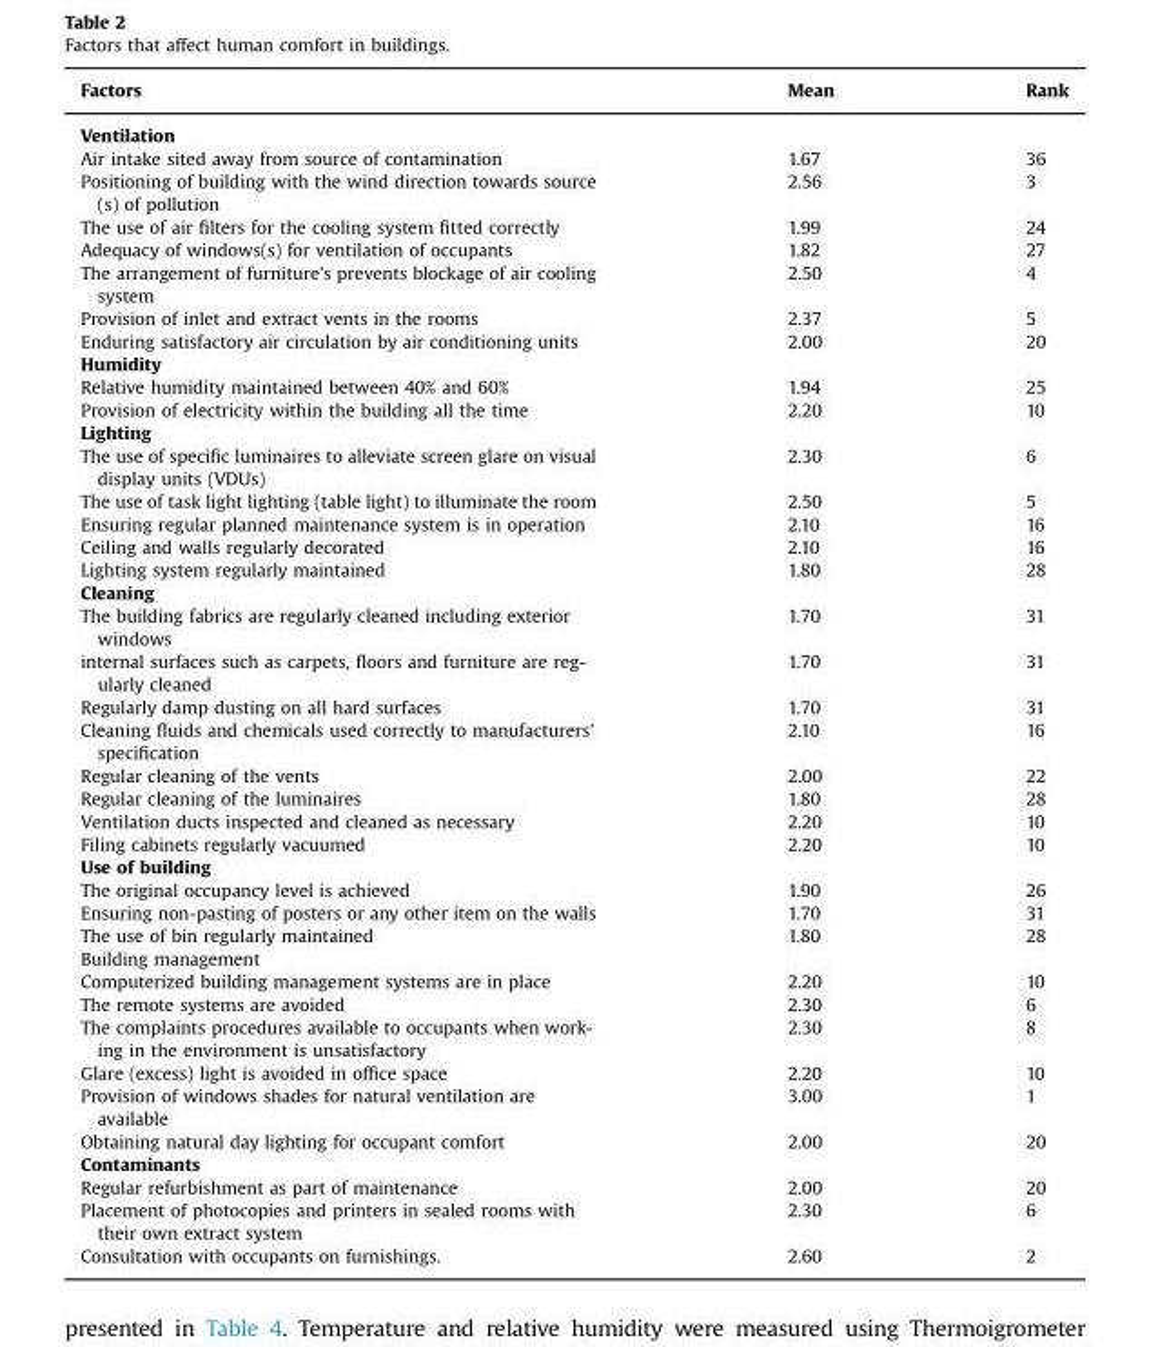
<table><thead><tr><td>Factors</td><td>Mean</td><td>Rank</td></tr></thead><tbody><tr><td colspan="3">Ventilation</td></tr><tr><td>Air intake sited away from source of contamination</td><td>1.67</td><td>36</td></tr><tr><td>Positioning of building with the wind direction towards source (s) of pollution</td><td>2.56</td><td>3</td></tr><tr><td>The use of air filters for the cooling system fitted correctly</td><td>1.99</td><td>24</td></tr><tr><td>Adequacy of windows(s) for ventilation of occupants</td><td>1.82</td><td>27</td></tr><tr><td>The arrangement of furniture&#x27;s prevents blockage of air cooling system</td><td>2.50</td><td>4</td></tr><tr><td>Provision of inlet and extract vents in the rooms</td><td>2.37</td><td>5</td></tr><tr><td>Enduring satisfactory air circulation by air conditioning units</td><td>2.00</td><td>20</td></tr><tr><td colspan="3">Humidity</td></tr><tr><td>Relative humidity maintained between 40% and 60%</td><td>1.94</td><td>25</td></tr><tr><td>Provision of electricity within the building all the time</td><td>2.20</td><td>10</td></tr><tr><td colspan="3">Lighting</td></tr><tr><td>The use of specific luminaires to alleviate screen glare on visual display units (VDUs)</td><td>2.30</td><td>6</td></tr><tr><td>The use of task light lighting (table light) to illuminate the room</td><td>2.50</td><td>5</td></tr><tr><td>Ensuring regular planned maintenance system is in operation</td><td>2.10</td><td>16</td></tr><tr><td>Ceiling and walls regularly decorated</td><td>2.10</td><td>16</td></tr><tr><td>Lighting system regularly maintained</td><td>1.80</td><td>28</td></tr><tr><td colspan="3">Cleaning</td></tr><tr><td>The building fabrics are regularly cleaned including exterior windows</td><td>1.70</td><td>31</td></tr><tr><td>internal surfaces such as carpets, floors and furniture are reg- ularly cleaned</td><td>1.70</td><td>31</td></tr><tr><td>Regularly damp dusting on all hard surfaces</td><td>1.70</td><td>31</td></tr><tr><td>Cleaning fluids and chemicals used correctly to manufacturers’ specification</td><td>2.10</td><td>16</td></tr><tr><td>Regular cleaning of the vents</td><td>2.00</td><td>22</td></tr><tr><td>Regular cleaning of the luminaires</td><td>1.80</td><td>28</td></tr><tr><td>Ventilation ducts inspected and cleaned as necessary</td><td>2.20</td><td>10</td></tr><tr><td>Filing cabinets regularly vacuumed</td><td>2.20</td><td>10</td></tr><tr><td colspan="3">Use of building</td></tr><tr><td>The original occupancy level is achieved</td><td>1.90</td><td>26</td></tr><tr><td>Ensuring non-pasting of posters or any other item on the walls</td><td>1.70</td><td>31</td></tr><tr><td>The use of bin regularly maintained</td><td>1.80</td><td>28</td></tr><tr><td colspan="3">Building management</td></tr><tr><td>Computerized building management systems are in place</td><td>2.20</td><td>10</td></tr><tr><td>The remote systems are avoided</td><td>2.30</td><td>6</td></tr><tr><td>The complaints procedures available to occupants when work- ing in the environment is unsatisfactory</td><td>2.30</td><td>8</td></tr><tr><td>Glare (excess) light is avoided in office space</td><td>2.20</td><td>10</td></tr><tr><td>Provision of windows shades for natural ventilation are available</td><td>3.00</td><td>1</td></tr><tr><td>Obtaining natural day lighting for occupant comfort</td><td>2.00</td><td>20</td></tr><tr><td colspan="3">Contaminants</td></tr><tr><td>Regular refurbishment as part of maintenance</td><td>2.00</td><td>20</td></tr><tr><td>Placement of photocopies and printers in sealed rooms with their own extract system</td><td>2.30</td><td>6</td></tr><tr><td>Consultation with occupants on furnishings.</td><td>2.60</td><td>2</td></tr></tbody></table>